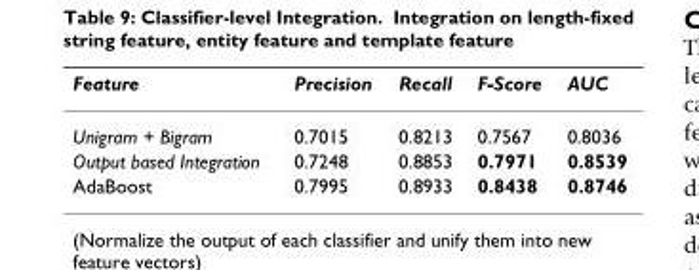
<table><thead><tr><td>Feature</td><td>Precision</td><td>Recall</td><td>F-Score</td><td>AUC</td></tr></thead><tbody><tr><td>Unigram + Bigram</td><td>0.7015</td><td>0.8213</td><td>0.7567</td><td>0.8036</td></tr><tr><td>Output based Integration</td><td>0.7248</td><td>0.8853</td><td>0.7971</td><td>0.8539</td></tr><tr><td>AdaBoost</td><td>0.7995</td><td>0.8933</td><td>0.8438</td><td>0.8746</td></tr></tbody></table>